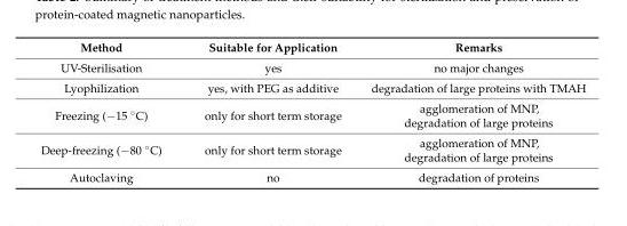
<table><thead><tr><td>Method</td><td>Suitable for Application</td><td>Remarks</td></tr></thead><tbody><tr><td>UV-Sterilisation</td><td>yes</td><td>no major changes</td></tr><tr><td>Lyophilization</td><td>yes, with PEG as additive</td><td>degradation of large proteins with TMAH</td></tr><tr><td>Freezing (−15 ◦C)</td><td>only for short term storage</td><td>agglomeration of MNP, degradation of large proteins</td></tr><tr><td>Deep-freezing (−80 ◦C)</td><td>only for short term storage</td><td>agglomeration of MNP, degradation of large proteins</td></tr><tr><td>Autoclaving</td><td>no</td><td>degradation of proteins</td></tr></tbody></table>